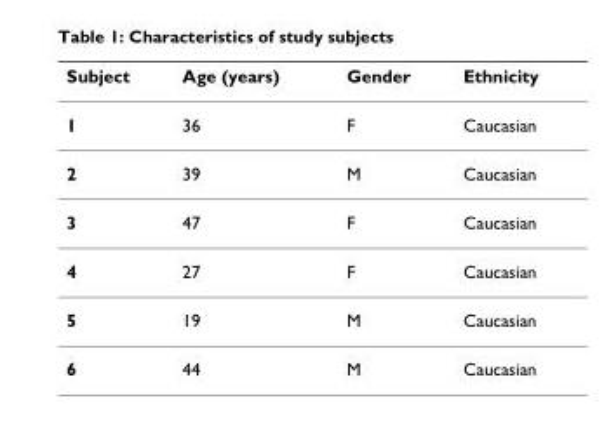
<table><thead><tr><td>Subject</td><td>Age (years)</td><td>Gender</td><td>Ethnicity</td></tr></thead><tbody><tr><td>1</td><td>36</td><td>F</td><td>Caucasian</td></tr><tr><td>2</td><td>39</td><td>M</td><td>Caucasian</td></tr><tr><td>3</td><td>47</td><td>F</td><td>Caucasian</td></tr><tr><td>4</td><td>27</td><td>F</td><td>Caucasian</td></tr><tr><td>5</td><td>19</td><td>M</td><td>Caucasian</td></tr><tr><td>6</td><td>44</td><td>M</td><td>Caucasian</td></tr></tbody></table>